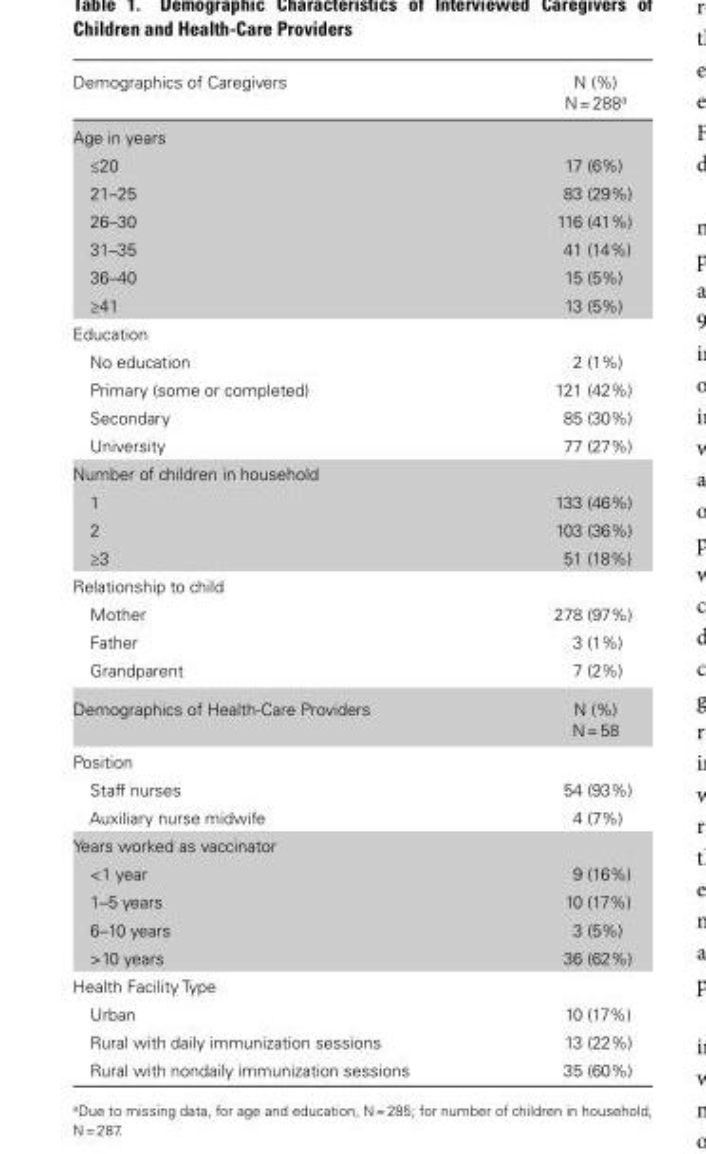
<table><thead><tr><td>Demographics of Caregivers</td><td>N (%) N = 288<sup>a</sup></td></tr></thead><tbody><tr><td colspan="2">Age in years</td></tr><tr><td>≤20</td><td>17 (6%)</td></tr><tr><td>21–25</td><td>83 (29%)</td></tr><tr><td>26–30</td><td>116 (41%)</td></tr><tr><td>31–35</td><td>41 (14%)</td></tr><tr><td>36–40</td><td>15 (5%)</td></tr><tr><td>≥41</td><td>13 (5%)</td></tr><tr><td colspan="2">Education</td></tr><tr><td>No education</td><td>2 (1%)</td></tr><tr><td>Primary (some or completed)</td><td>121 (42%)</td></tr><tr><td>Secondary</td><td>85 (30%)</td></tr><tr><td>University</td><td>77 (27%)</td></tr><tr><td colspan="2">Number of children in household</td></tr><tr><td>1</td><td>133 (46%)</td></tr><tr><td>2</td><td>103 (36%)</td></tr><tr><td>≥3</td><td>51 (18%)</td></tr><tr><td colspan="2">Relationship to child</td></tr><tr><td>Mother</td><td>278 (97%)</td></tr><tr><td>Father</td><td>3 (1%)</td></tr><tr><td>Grandparent</td><td>7 (2%)</td></tr><tr><td>Demographics of Health-Care Providers</td><td>N (%) N = 58</td></tr><tr><td colspan="2">Position</td></tr><tr><td>Staff nurses</td><td>54 (93%)</td></tr><tr><td>Auxiliary nurse midwife</td><td>4 (7%)</td></tr><tr><td colspan="2">Years worked as vaccinator</td></tr><tr><td>&lt;1 year</td><td>9 (16%)</td></tr><tr><td>1–5 years</td><td>10 (17%)</td></tr><tr><td>6–10 years</td><td>3 (5%)</td></tr><tr><td>&gt;10 years</td><td>36 (62%)</td></tr><tr><td colspan="2">Health Facility Type</td></tr><tr><td>Urban</td><td>10 (17%)</td></tr><tr><td>Rural with daily immunization sessions</td><td>13 (22%)</td></tr><tr><td>Rural with nondaily immunization sessions</td><td>35 (60%)</td></tr></tbody></table>